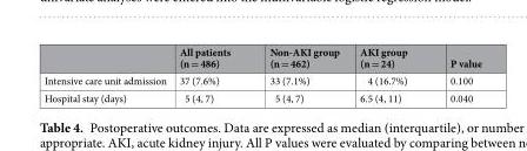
<table><thead><tr><td></td><td>All patients (n = 486)</td><td>Non-AKI group (n = 462)</td><td>AKI group (n = 24)</td><td>P value</td></tr></thead><tbody><tr><td>Intensive care unit admission</td><td>37 (7.6%)</td><td>33 (7.1%)</td><td>4 (16.7%)</td><td>0.100</td></tr><tr><td>Hospital stay (days)</td><td>5 (4, 7)</td><td>5 (4, 7)</td><td>6.5 (4, 11)</td><td>0.040</td></tr></tbody></table>